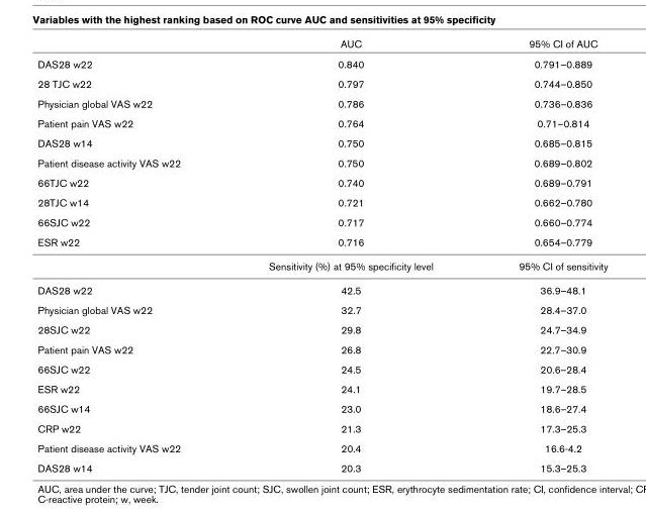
<table><thead><tr><td></td><td>AUC</td><td>95% CI of AUC</td></tr></thead><tbody><tr><td>DAS28 w22</td><td>0.840</td><td>0.791–0.889</td></tr><tr><td>28 TJC w22</td><td>0.797</td><td>0.744–0.850</td></tr><tr><td>Physician global VAS w22</td><td>0.786</td><td>0.736–0.836</td></tr><tr><td>Patient pain VAS w22</td><td>0.764</td><td>0.71–0.814</td></tr><tr><td>DAS28 w14</td><td>0.750</td><td>0.685–0.815</td></tr><tr><td>Patient disease activity VAS w22</td><td>0.750</td><td>0.689–0.802</td></tr><tr><td>66TJC w22</td><td>0.740</td><td>0.689–0.791</td></tr><tr><td>28TJC w14</td><td>0.721</td><td>0.662–0.780</td></tr><tr><td>66SJC w22</td><td>0.717</td><td>0.660–0.774</td></tr><tr><td rowspan="2">ESR w22</td><td>0.716</td><td>0.654–0.779</td></tr><tr><td>Sensitivity (%) at 95% specificity level</td><td>95% CI of sensitivity</td></tr><tr><td>DAS28 w22</td><td>42.5</td><td>36.9–48.1</td></tr><tr><td>Physician global VAS w22</td><td>32.7</td><td>28.4–37.0</td></tr><tr><td>28SJC w22</td><td>29.8</td><td>24.7–34.9</td></tr><tr><td>Patient pain VAS w22</td><td>26.8</td><td>22.7–30.9</td></tr><tr><td>66SJC w22</td><td>24.5</td><td>20.6–28.4</td></tr><tr><td>ESR w22</td><td>24.1</td><td>19.7–28.5</td></tr><tr><td>66SJC w14</td><td>23.0</td><td>18.6–27.4</td></tr><tr><td>CRP w22</td><td>21.3</td><td>17.3–25.3</td></tr><tr><td>Patient disease activity VAS w22</td><td>20.4</td><td>16.6-4.2</td></tr><tr><td>DAS28 w14</td><td>20.3</td><td>15.3–25.3</td></tr></tbody></table>